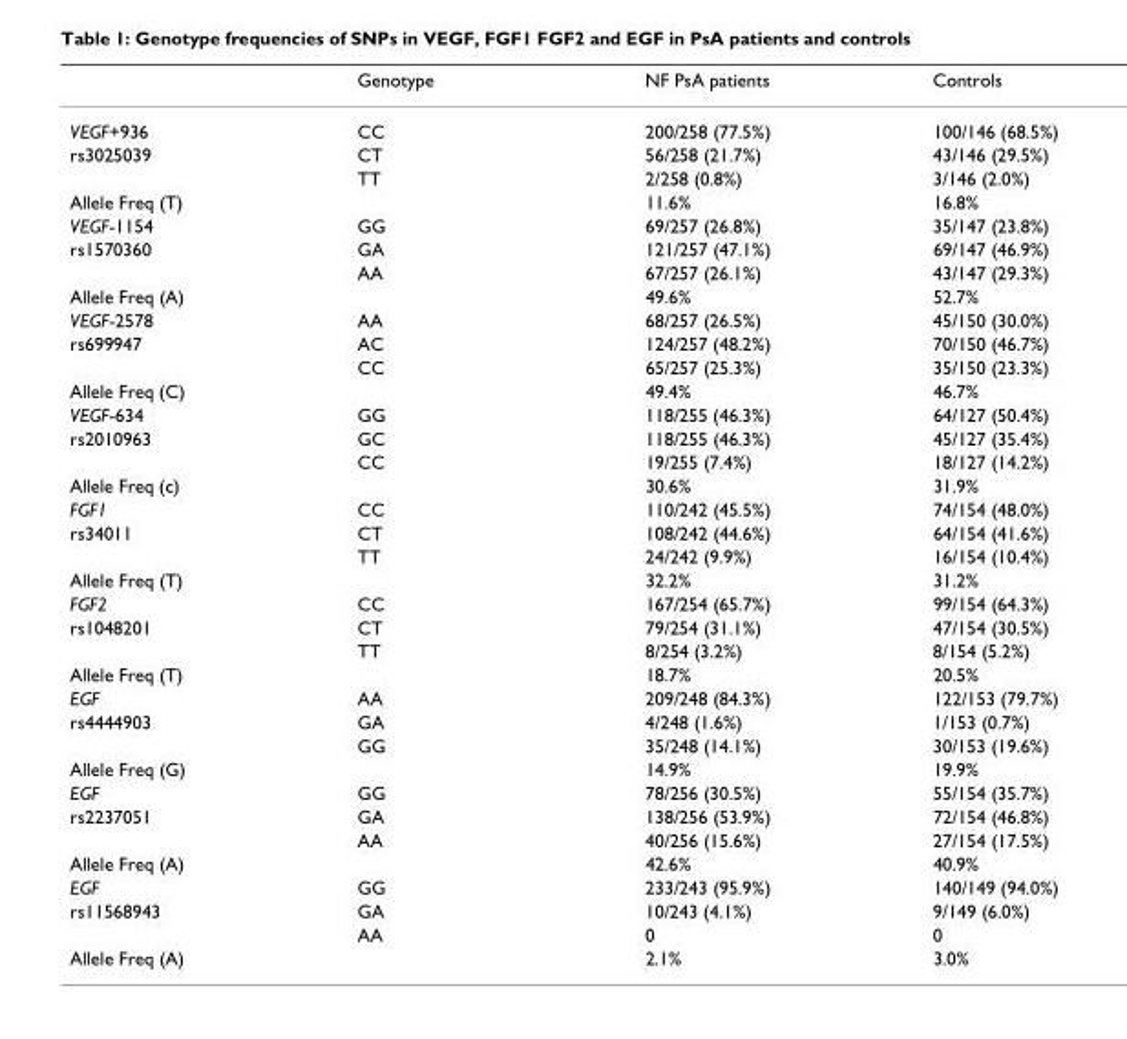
<table><thead><tr><td></td><td>Genotype</td><td>NF PsA patients</td><td>Controls</td></tr></thead><tbody><tr><td>VEGF+936</td><td>CC</td><td>200/258 (77.5%)</td><td>100/146 (68.5%)</td></tr><tr><td rowspan="2">rs3025039</td><td>CT</td><td>56/258 (21.7%)</td><td>43/146 (29.5%)</td></tr><tr><td>TT</td><td>2/258 (0.8%)</td><td>3/146 (2.0%)</td></tr><tr><td>Allele Freq (T)</td><td></td><td>11.6%</td><td>16.8%</td></tr><tr><td>VEGF-1154</td><td>GG</td><td>69/257 (26.8%)</td><td>35/147 (23.8%)</td></tr><tr><td rowspan="2">rs1570360</td><td>GA</td><td>121/257 (47.1%)</td><td>69/147 (46.9%)</td></tr><tr><td>AA</td><td>67/257 (26.1%)</td><td>43/147 (29.3%)</td></tr><tr><td>Allele Freq (A)</td><td></td><td>49.6%</td><td>52.7%</td></tr><tr><td>VEGF-2578</td><td>AA</td><td>68/257 (26.5%)</td><td>45/150 (30.0%)</td></tr><tr><td rowspan="2">rs699947</td><td>AC</td><td>124/257 (48.2%)</td><td>70/150 (46.7%)</td></tr><tr><td>CC</td><td>65/257 (25.3%)</td><td>35/150 (23.3%)</td></tr><tr><td>Allele Freq (C)</td><td></td><td>49.4%</td><td>46.7%</td></tr><tr><td>VEGF-634</td><td>GG</td><td>118/255 (46.3%)</td><td>64/127 (50.4%)</td></tr><tr><td rowspan="2">rs2010963</td><td>GC</td><td>118/255 (46.3%)</td><td>45/127 (35.4%)</td></tr><tr><td>CC</td><td>19/255 (7.4%)</td><td>18/127 (14.2%)</td></tr><tr><td>Allele Freq (c)</td><td></td><td>30.6%</td><td>31.9%</td></tr><tr><td>FGF1</td><td>CC</td><td>110/242 (45.5%)</td><td>74/154 (48.0%)</td></tr><tr><td rowspan="2">rs34011</td><td>CT</td><td>108/242 (44.6%)</td><td>64/154 (41.6%)</td></tr><tr><td>TT</td><td>24/242 (9.9%)</td><td>16/154 (10.4%)</td></tr><tr><td>Allele Freq (T)</td><td></td><td>32.2%</td><td>31.2%</td></tr><tr><td>FGF2</td><td>CC</td><td>167/254 (65.7%)</td><td>99/154 (64.3%)</td></tr><tr><td rowspan="2">rs1048201</td><td>CT</td><td>79/254 (31.1%)</td><td>47/154 (30.5%)</td></tr><tr><td>TT</td><td>8/254 (3.2%)</td><td>8/154 (5.2%)</td></tr><tr><td>Allele Freq (T)</td><td></td><td>18.7%</td><td>20.5%</td></tr><tr><td>EGF</td><td>AA</td><td>209/248 (84.3%)</td><td>122/153 (79.7%)</td></tr><tr><td rowspan="2">rs4444903</td><td>GA</td><td>4/248 (1.6%)</td><td>1/153 (0.7%)</td></tr><tr><td>GG</td><td>35/248 (14.1%)</td><td>30/153 (19.6%)</td></tr><tr><td>Allele Freq (G)</td><td></td><td>14.9%</td><td>19.9%</td></tr><tr><td>EGF</td><td>GG</td><td>78/256 (30.5%)</td><td>55/154 (35.7%)</td></tr><tr><td rowspan="2">rs2237051</td><td>GA</td><td>138/256 (53.9%)</td><td>72/154 (46.8%)</td></tr><tr><td>AA</td><td>40/256 (15.6%)</td><td>27/154 (17.5%)</td></tr><tr><td>Allele Freq (A)</td><td></td><td>42.6%</td><td>40.9%</td></tr><tr><td>EGF</td><td>GG</td><td>233/243 (95.9%)</td><td>140/149 (94.0%)</td></tr><tr><td rowspan="2">rs11568943</td><td>GA</td><td>10/243 (4.1%)</td><td>9/149 (6.0%)</td></tr><tr><td>AA</td><td>0</td><td>0</td></tr><tr><td>Allele Freq (A)</td><td></td><td>2.1%</td><td>3.0%</td></tr></tbody></table>